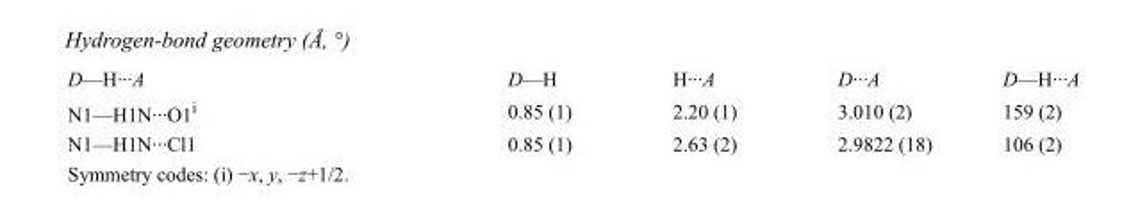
<table><tbody><tr><td>D—H···A</td><td>D—H</td><td>H···A</td><td>D···A</td><td>D—H···A</td></tr><tr><td>N1—H1N···O1<sup>i</sup></td><td>0.85 (1)</td><td>2.20 (1)</td><td>3.010 (2)</td><td>159 (2)</td></tr><tr><td>N1—H1N···Cl1</td><td>0.85 (1)</td><td>2.63 (2)</td><td>2.9822 (18)</td><td>106 (2)</td></tr></tbody></table>